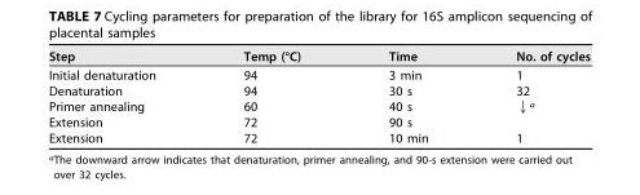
<table><thead><tr><td>Step</td><td>Temp (°C)</td><td>Time</td><td>No. of cycles</td></tr></thead><tbody><tr><td>Initial denaturation</td><td>94</td><td>3 min</td><td>1</td></tr><tr><td>Denaturation</td><td>94</td><td>30 s</td><td>32</td></tr><tr><td>Primer annealing</td><td>60</td><td>40 s</td><td>↓<sup>a</sup></td></tr><tr><td>Extension</td><td>72</td><td>90 s</td><td></td></tr><tr><td>Extension</td><td>72</td><td>10 min</td><td>1</td></tr></tbody></table>